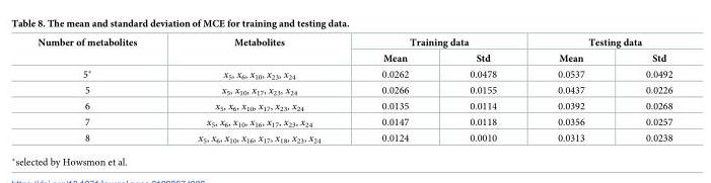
<table><thead><tr><td rowspan="2">Number of metabolites</td><td rowspan="2">Metabolites</td><td colspan="2">Training data</td><td colspan="2">Testing data</td></tr><tr><td>Mean</td><td>Std</td><td>Mean</td><td>Std</td></tr></thead><tbody><tr><td>5*</td><td>x<sub>5</sub>, x<sub>6</sub>, x<sub>10</sub>, x<sub>23</sub>, x<sub>24</sub></td><td>0.0262</td><td>0.0478</td><td>0.0537</td><td>0.0492</td></tr><tr><td>5</td><td>x<sub>5</sub>, x<sub>10</sub>, x<sub>17</sub>, x<sub>23</sub>, x<sub>24</sub></td><td>0.0266</td><td>0.0155</td><td>0.0437</td><td>0.0226</td></tr><tr><td>6</td><td>x<sub>5</sub>, x<sub>6</sub>, x<sub>10</sub>, x<sub>17</sub>, x<sub>23</sub>, x<sub>24</sub></td><td>0.0135</td><td>0.0114</td><td>0.0392</td><td>0.0268</td></tr><tr><td>7</td><td>x<sub>5</sub>, x<sub>6</sub>, x<sub>10</sub>, x<sub>16</sub>, x<sub>17</sub>, x<sub>23</sub>, x<sub>24</sub></td><td>0.0147</td><td>0.0118</td><td>0.0356</td><td>0.0257</td></tr><tr><td>8</td><td>x<sub>5</sub>, x<sub>6</sub>, x<sub>10</sub>, x<sub>16</sub>, x<sub>17</sub>, x<sub>18</sub>, x<sub>23</sub>, x<sub>24</sub></td><td>0.0124</td><td>0.0010</td><td>0.0313</td><td>0.0238</td></tr></tbody></table>